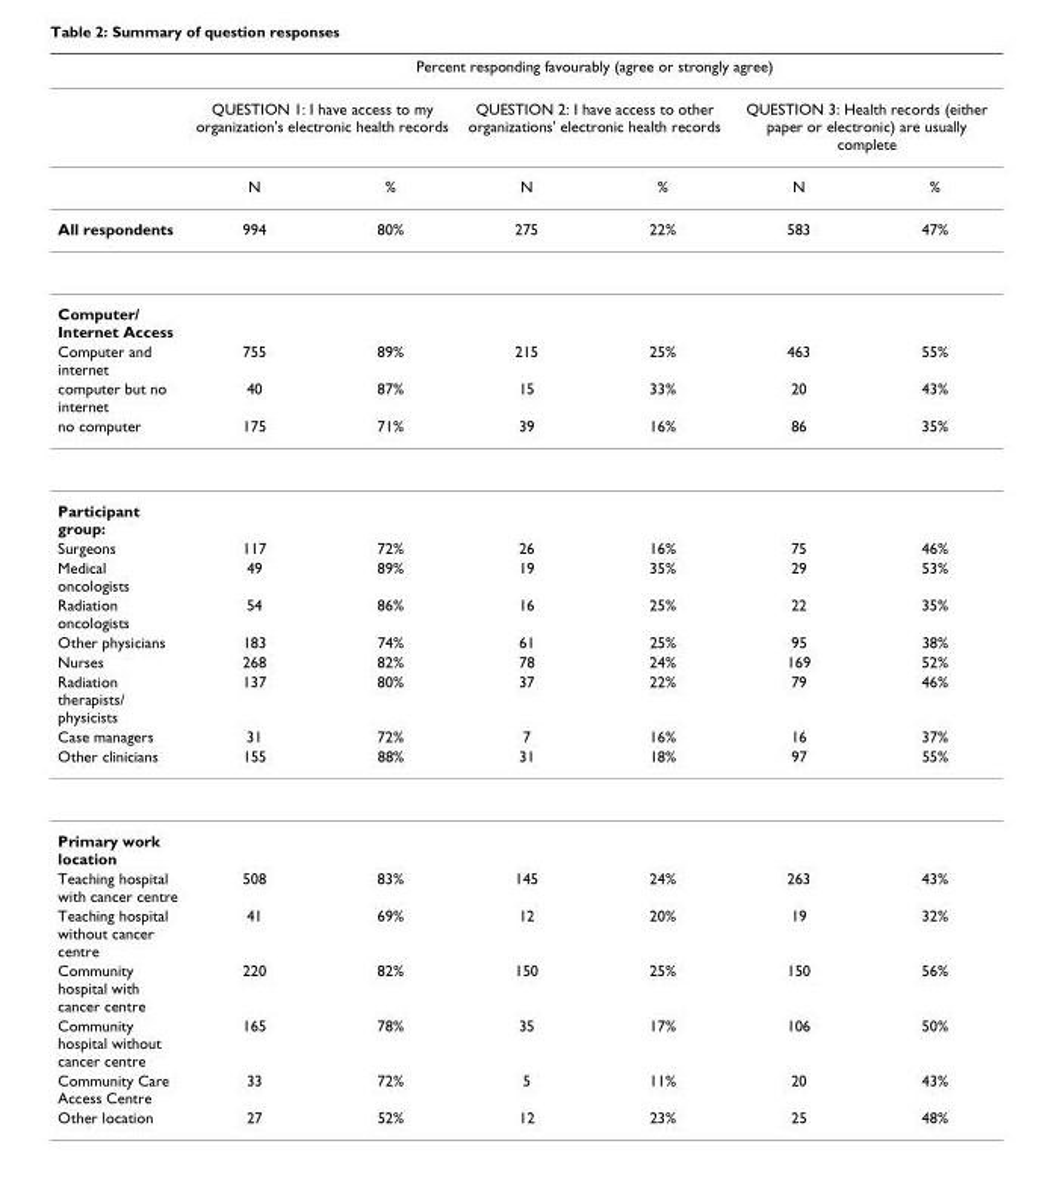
<table><thead><tr><td rowspan="3"></td><td colspan="6">Percent responding favourably (agree or strongly agree)</td></tr><tr><td colspan="2">QUESTION 1: I have access to my organization&#x27;s electronic health records</td><td colspan="2">QUESTION 2: I have access to other organizations&#x27; electronic health records</td><td colspan="2">QUESTION 3: Health records (either paper or electronic) are usually complete</td></tr><tr><td>N</td><td>%</td><td>N</td><td>%</td><td>N</td><td>%</td></tr></thead><tbody><tr><td>All respondents</td><td>994</td><td>80%</td><td>275</td><td>22%</td><td>583</td><td>47%</td></tr><tr><td colspan="7">Computer/ Internet Access</td></tr><tr><td>Computer and internet</td><td>755</td><td>89%</td><td>215</td><td>25%</td><td>463</td><td>55%</td></tr><tr><td>computer but no internet</td><td>40</td><td>87%</td><td>15</td><td>33%</td><td>20</td><td>43%</td></tr><tr><td>no computer</td><td>175</td><td>71%</td><td>39</td><td>16%</td><td>86</td><td>35%</td></tr><tr><td colspan="7">Participant group:</td></tr><tr><td>Surgeons</td><td>117</td><td>72%</td><td>26</td><td>16%</td><td>75</td><td>46%</td></tr><tr><td>Medical oncologists</td><td>49</td><td>89%</td><td>19</td><td>35%</td><td>29</td><td>53%</td></tr><tr><td>Radiation oncologists</td><td>54</td><td>86%</td><td>16</td><td>25%</td><td>22</td><td>35%</td></tr><tr><td>Other physicians</td><td>183</td><td>74%</td><td>61</td><td>25%</td><td>95</td><td>38%</td></tr><tr><td>Nurses</td><td>268</td><td>82%</td><td>78</td><td>24%</td><td>169</td><td>52%</td></tr><tr><td>Radiation therapists/ physicists</td><td>137</td><td>80%</td><td>37</td><td>22%</td><td>79</td><td>46%</td></tr><tr><td>Case managers</td><td>31</td><td>72%</td><td>7</td><td>16%</td><td>16</td><td>37%</td></tr><tr><td>Other clinicians</td><td>155</td><td>88%</td><td>31</td><td>18%</td><td>97</td><td>55%</td></tr><tr><td colspan="7">Primary work location</td></tr><tr><td>Teaching hospital with cancer centre</td><td>508</td><td>83%</td><td>145</td><td>24%</td><td>263</td><td>43%</td></tr><tr><td>Teaching hospital without cancer centre</td><td>41</td><td>69%</td><td>12</td><td>20%</td><td>19</td><td>32%</td></tr><tr><td>Community hospital with cancer centre</td><td>220</td><td>82%</td><td>150</td><td>25%</td><td>150</td><td>56%</td></tr><tr><td>Community hospital without cancer centre</td><td>165</td><td>78%</td><td>35</td><td>17%</td><td>106</td><td>50%</td></tr><tr><td>Community Care Access Centre</td><td>33</td><td>72%</td><td>5</td><td>11%</td><td>20</td><td>43%</td></tr><tr><td>Other location</td><td>27</td><td>52%</td><td>12</td><td>23%</td><td>25</td><td>48%</td></tr></tbody></table>